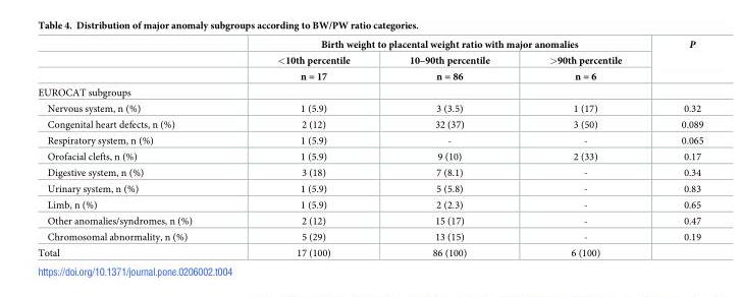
<table><thead><tr><td rowspan="3"></td><td colspan="3">Birth weight to placental weight ratio with major anomalies</td><td rowspan="3">P</td></tr><tr><td rowspan="2">&lt;10th percentile n = 17</td><td rowspan="2">10–90th percentile n = 86</td><td rowspan="2">&gt;90th percentile n = 6</td></tr><tr></tr></thead><tbody><tr><td colspan="5">EUROCAT subgroups</td></tr><tr><td>Nervous system, n (%)</td><td>1 (5.9)</td><td>3 (3.5)</td><td>1 (17)</td><td>0.32</td></tr><tr><td>Congenital heart defects, n (%)</td><td>2 (12)</td><td>32 (37)</td><td>3 (50)</td><td>0.089</td></tr><tr><td>Respiratory system, n (%)</td><td>1 (5.9)</td><td>-</td><td>-</td><td>0.065</td></tr><tr><td>Orofacial clefts, n (%)</td><td>1 (5.9)</td><td>9 (10)</td><td>2 (33)</td><td>0.17</td></tr><tr><td>Digestive system, n (%)</td><td>3 (18)</td><td>7 (8.1)</td><td>-</td><td>0.34</td></tr><tr><td>Urinary system, n (%)</td><td>1 (5.9)</td><td>5 (5.8)</td><td>-</td><td>0.83</td></tr><tr><td>Limb, n (%)</td><td>1 (5.9)</td><td>2 (2.3)</td><td>-</td><td>0.65</td></tr><tr><td>Other anomalies/syndromes, n (%)</td><td>2 (12)</td><td>15 (17)</td><td>-</td><td>0.47</td></tr><tr><td>Chromosomal abnormality, n (%)</td><td>5 (29)</td><td>13 (15)</td><td>-</td><td>0.19</td></tr><tr><td>Total</td><td>17 (100)</td><td>86 (100)</td><td>6 (100)</td><td></td></tr></tbody></table>